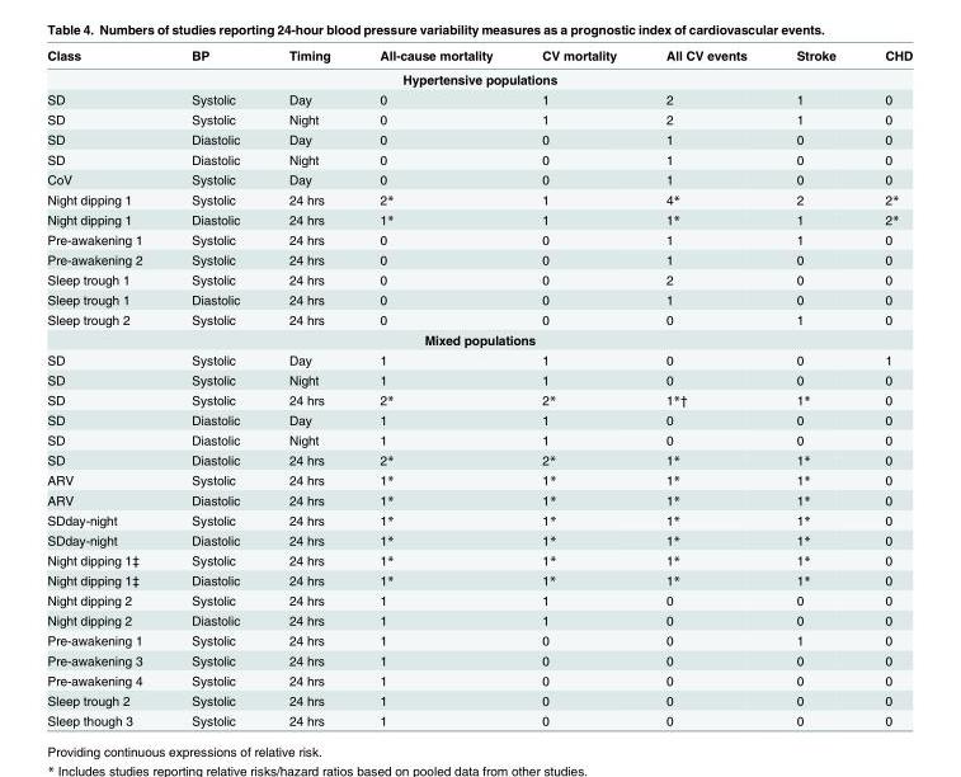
<table><thead><tr><td>Class</td><td>BP</td><td>Timing</td><td>All-cause mortality</td><td>CV mortality</td><td>All CV events</td><td>Stroke</td><td>CHD</td></tr></thead><tbody><tr><td colspan="8">Hypertensive populations</td></tr><tr><td>SD</td><td>Systolic</td><td>Day</td><td>0</td><td>1</td><td>2</td><td>1</td><td>0</td></tr><tr><td>SD</td><td>Systolic</td><td>Night</td><td>0</td><td>1</td><td>2</td><td>1</td><td>0</td></tr><tr><td>SD</td><td>Diastolic</td><td>Day</td><td>0</td><td>0</td><td>1</td><td>0</td><td>0</td></tr><tr><td>SD</td><td>Diastolic</td><td>Night</td><td>0</td><td>0</td><td>1</td><td>0</td><td>0</td></tr><tr><td>CoV</td><td>Systolic</td><td>Day</td><td>0</td><td>0</td><td>1</td><td>0</td><td>0</td></tr><tr><td>Night dipping 1</td><td>Systolic</td><td>24 hrs</td><td>2*</td><td>1</td><td>4*</td><td>2</td><td>2*</td></tr><tr><td>Night dipping 1</td><td>Diastolic</td><td>24 hrs</td><td>1*</td><td>1</td><td>1*</td><td>1</td><td>2*</td></tr><tr><td>Pre-awakening 1</td><td>Systolic</td><td>24 hrs</td><td>0</td><td>0</td><td>1</td><td>1</td><td>0</td></tr><tr><td>Pre-awakening 2</td><td>Systolic</td><td>24 hrs</td><td>0</td><td>0</td><td>1</td><td>0</td><td>0</td></tr><tr><td>Sleep trough 1</td><td>Systolic</td><td>24 hrs</td><td>0</td><td>0</td><td>2</td><td>0</td><td>0</td></tr><tr><td>Sleep trough 1</td><td>Diastolic</td><td>24 hrs</td><td>0</td><td>0</td><td>1</td><td>0</td><td>0</td></tr><tr><td>Sleep trough 2</td><td>Systolic</td><td>24 hrs</td><td>0</td><td>0</td><td>0</td><td>1</td><td>0</td></tr><tr><td colspan="8">Mixed populations</td></tr><tr><td>SD</td><td>Systolic</td><td>Day</td><td>1</td><td>1</td><td>0</td><td>0</td><td>1</td></tr><tr><td>SD</td><td>Systolic</td><td>Night</td><td>1</td><td>1</td><td>0</td><td>0</td><td>0</td></tr><tr><td>SD</td><td>Systolic</td><td>24 hrs</td><td>2*</td><td>2*</td><td>1*†</td><td>1*</td><td>0</td></tr><tr><td>SD</td><td>Diastolic</td><td>Day</td><td>1</td><td>1</td><td>0</td><td>0</td><td>0</td></tr><tr><td>SD</td><td>Diastolic</td><td>Night</td><td>1</td><td>1</td><td>0</td><td>0</td><td>0</td></tr><tr><td>SD</td><td>Diastolic</td><td>24 hrs</td><td>2*</td><td>2*</td><td>1*</td><td>1*</td><td>0</td></tr><tr><td>ARV</td><td>Systolic</td><td>24 hrs</td><td>1*</td><td>1*</td><td>1*</td><td>1*</td><td>0</td></tr><tr><td>ARV</td><td>Diastolic</td><td>24 hrs</td><td>1*</td><td>1*</td><td>1*</td><td>1*</td><td>0</td></tr><tr><td>SDday-night</td><td>Systolic</td><td>24 hrs</td><td>1*</td><td>1*</td><td>1*</td><td>1*</td><td>0</td></tr><tr><td>SDday-night</td><td>Diastolic</td><td>24 hrs</td><td>1*</td><td>1*</td><td>1*</td><td>1*</td><td>0</td></tr><tr><td>Night dipping 1‡</td><td>Systolic</td><td>24 hrs</td><td>1*</td><td>1*</td><td>1*</td><td>1*</td><td>0</td></tr><tr><td>Night dipping 1‡</td><td>Diastolic</td><td>24 hrs</td><td>1*</td><td>1*</td><td>1*</td><td>1*</td><td>0</td></tr><tr><td>Night dipping 2</td><td>Systolic</td><td>24 hrs</td><td>1</td><td>1</td><td>0</td><td>0</td><td>0</td></tr><tr><td>Night dipping 2</td><td>Diastolic</td><td>24 hrs</td><td>1</td><td>1</td><td>0</td><td>0</td><td>0</td></tr><tr><td>Pre-awakening 1</td><td>Systolic</td><td>24 hrs</td><td>1</td><td>0</td><td>0</td><td>1</td><td>0</td></tr><tr><td>Pre-awakening 3</td><td>Systolic</td><td>24 hrs</td><td>1</td><td>0</td><td>0</td><td>0</td><td>0</td></tr><tr><td>Pre-awakening 4</td><td>Systolic</td><td>24 hrs</td><td>1</td><td>0</td><td>0</td><td>0</td><td>0</td></tr><tr><td>Sleep trough 2</td><td>Systolic</td><td>24 hrs</td><td>1</td><td>0</td><td>0</td><td>0</td><td>0</td></tr><tr><td>Sleep though 3</td><td>Systolic</td><td>24 hrs</td><td>1</td><td>0</td><td>0</td><td>0</td><td>0</td></tr></tbody></table>